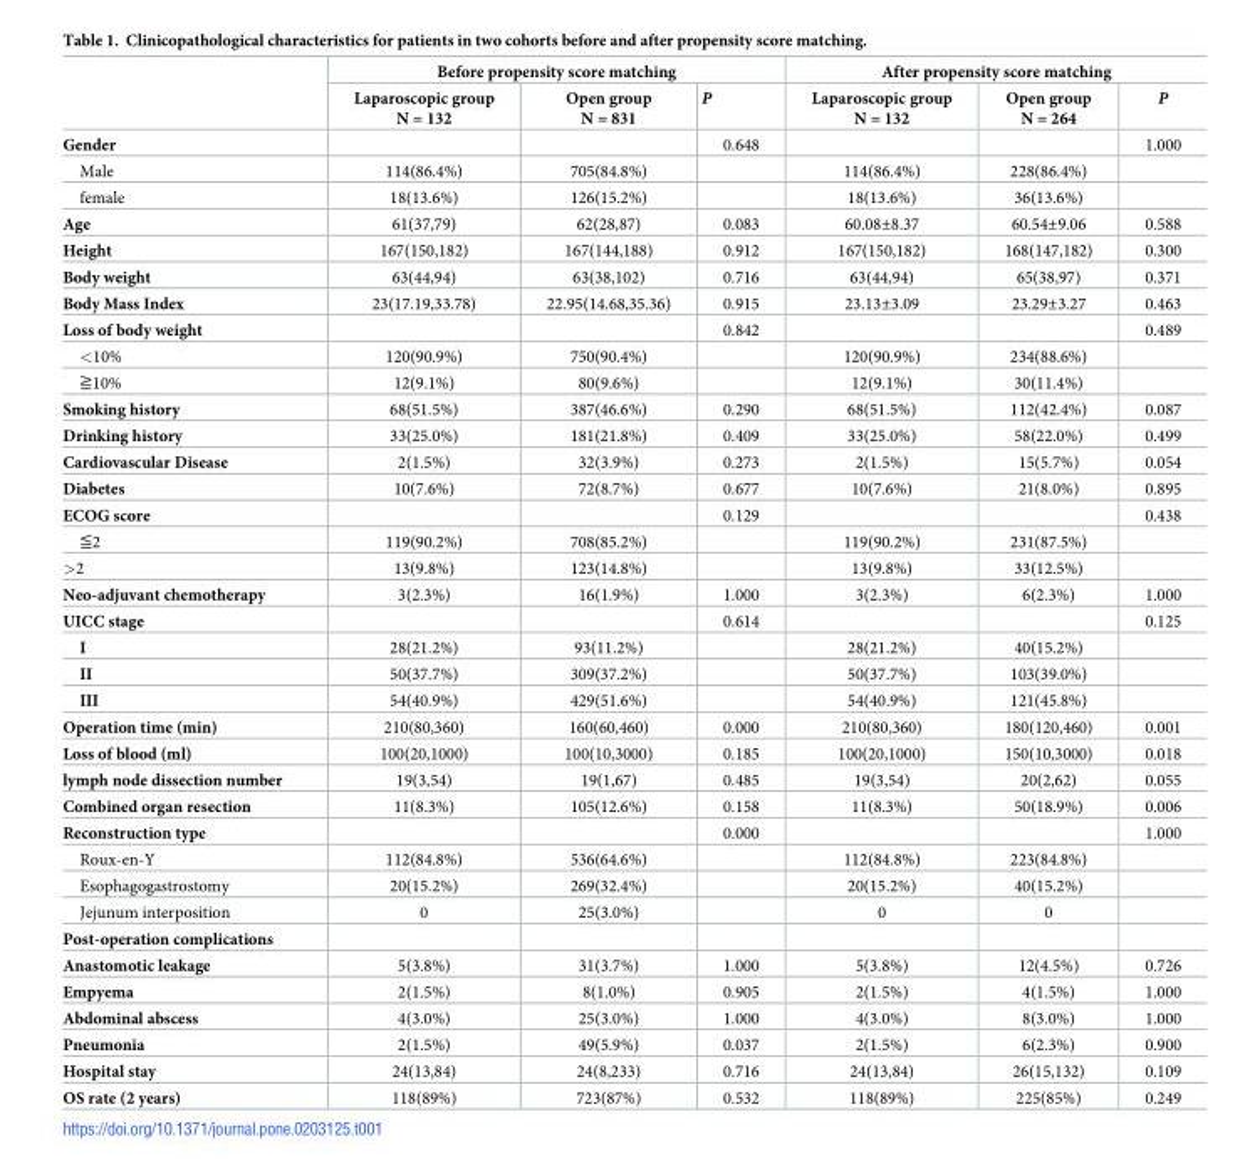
<table><thead><tr><td rowspan="2"></td><td colspan="3">Before propensity score matching</td><td colspan="3">After propensity score matching</td></tr><tr><td>Laparoscopic group N = 132</td><td>Open group N = 831</td><td>P</td><td>Laparoscopic group N = 132</td><td>Open group N = 264</td><td>P</td></tr></thead><tbody><tr><td>Gender</td><td></td><td></td><td>0.648</td><td></td><td></td><td>1.000</td></tr><tr><td>Male</td><td>114(86.4%)</td><td>705(84.8%)</td><td></td><td>114(86.4%)</td><td>228(86.4%)</td><td></td></tr><tr><td>female</td><td>18(13.6%)</td><td>126(15.2%)</td><td></td><td>18(13.6%)</td><td>36(13.6%)</td><td></td></tr><tr><td>Age</td><td>61(37,79)</td><td>62(28,87)</td><td>0.083</td><td>60.08±8.37</td><td>60.54±9.06</td><td>0.588</td></tr><tr><td>Height</td><td>167(150,182)</td><td>167(144,188)</td><td>0.912</td><td>167(150,182)</td><td>168(147,182)</td><td>0.300</td></tr><tr><td>Body weight</td><td>63(44,94)</td><td>63(38,102)</td><td>0.716</td><td>63(44,94)</td><td>65(38,97)</td><td>0.371</td></tr><tr><td>Body Mass Index</td><td>23(17.19,33.78)</td><td>22.95(14.68,35.36)</td><td>0.915</td><td>23.13±3.09</td><td>23.29±3.27</td><td>0.463</td></tr><tr><td>Loss of body weight</td><td></td><td></td><td>0.842</td><td></td><td></td><td>0.489</td></tr><tr><td>&lt;10%</td><td>120(90.9%)</td><td>750(90.4%)</td><td></td><td>120(90.9%)</td><td>234(88.6%)</td><td></td></tr><tr><td>≧10%</td><td>12(9.1%)</td><td>80(9.6%)</td><td></td><td>12(9.1%)</td><td>30(11.4%)</td><td></td></tr><tr><td>Smoking history</td><td>68(51.5%)</td><td>387(46.6%)</td><td>0.290</td><td>68(51.5%)</td><td>112(42.4%)</td><td>0.087</td></tr><tr><td>Drinking history</td><td>33(25.0%)</td><td>181(21.8%)</td><td>0.409</td><td>33(25.0%)</td><td>58(22.0%)</td><td>0.499</td></tr><tr><td>Cardiovascular Disease</td><td>2(1.5%)</td><td>32(3.9%)</td><td>0.273</td><td>2(1.5%)</td><td>15(5.7%)</td><td>0.054</td></tr><tr><td>Diabetes</td><td>10(7.6%)</td><td>72(8.7%)</td><td>0.677</td><td>10(7.6%)</td><td>21(8.0%)</td><td>0.895</td></tr><tr><td>ECOG score</td><td></td><td></td><td>0.129</td><td></td><td></td><td>0.438</td></tr><tr><td>≦2</td><td>119(90.2%)</td><td>708(85.2%)</td><td></td><td>119(90.2%)</td><td>231(87.5%)</td><td></td></tr><tr><td>&gt;2</td><td>13(9.8%)</td><td>123(14.8%)</td><td></td><td>13(9.8%)</td><td>33(12.5%)</td><td></td></tr><tr><td>Neo-adjuvant chemotherapy</td><td>3(2.3%)</td><td>16(1.9%)</td><td>1.000</td><td>3(2.3%)</td><td>6(2.3%)</td><td>1.000</td></tr><tr><td>UICC stage</td><td></td><td></td><td>0.614</td><td></td><td></td><td>0.125</td></tr><tr><td>I</td><td>28(21.2%)</td><td>93(11.2%)</td><td></td><td>28(21.2%)</td><td>40(15.2%)</td><td></td></tr><tr><td>II</td><td>50(37.7%)</td><td>309(37.2%)</td><td></td><td>50(37.7%)</td><td>103(39.0%)</td><td></td></tr><tr><td>III</td><td>54(40.9%)</td><td>429(51.6%)</td><td></td><td>54(40.9%)</td><td>121(45.8%)</td><td></td></tr><tr><td>Operation time (min)</td><td>210(80,360)</td><td>160(60,460)</td><td>0.000</td><td>210(80,360)</td><td>180(120,460)</td><td>0.001</td></tr><tr><td>Loss of blood (ml)</td><td>100(20,1000)</td><td>100(10,3000)</td><td>0.185</td><td>100(20,1000)</td><td>150(10,3000)</td><td>0.018</td></tr><tr><td>lymph node dissection number</td><td>19(3,54)</td><td>19(1,67)</td><td>0.485</td><td>19(3,54)</td><td>20(2,62)</td><td>0.055</td></tr><tr><td>Combined organ resection</td><td>11(8.3%)</td><td>105(12.6%)</td><td>0.158</td><td>11(8.3%)</td><td>50(18.9%)</td><td>0.006</td></tr><tr><td>Reconstruction type</td><td></td><td></td><td>0.000</td><td></td><td></td><td>1.000</td></tr><tr><td>Roux-en-Y</td><td>112(84.8%)</td><td>536(64.6%)</td><td></td><td>112(84.8%)</td><td>223(84.8%)</td><td></td></tr><tr><td>Esophagogastrostomy</td><td>20(15.2%)</td><td>269(32.4%)</td><td></td><td>20(15.2%)</td><td>40(15.2%)</td><td></td></tr><tr><td>Jejunum interposition</td><td>0</td><td>25(3.0%)</td><td></td><td>0</td><td>0</td><td></td></tr><tr><td colspan="7">Post-operation complications</td></tr><tr><td>Anastomotic leakage</td><td>5(3.8%)</td><td>31(3.7%)</td><td>1.000</td><td>5(3.8%)</td><td>12(4.5%)</td><td>0.726</td></tr><tr><td>Empyema</td><td>2(1.5%)</td><td>8(1.0%)</td><td>0.905</td><td>2(1.5%)</td><td>4(1.5%)</td><td>1.000</td></tr><tr><td>Abdominal abscess</td><td>4(3.0%)</td><td>25(3.0%)</td><td>1.000</td><td>4(3.0%)</td><td>8(3.0%)</td><td>1.000</td></tr><tr><td>Pneumonia</td><td>2(1.5%)</td><td>49(5.9%)</td><td>0.037</td><td>2(1.5%)</td><td>6(2.3%)</td><td>0.900</td></tr><tr><td>Hospital stay</td><td>24(13,84)</td><td>24(8,233)</td><td>0.716</td><td>24(13,84)</td><td>26(15,132)</td><td>0.109</td></tr><tr><td>OS rate (2 years)</td><td>118(89%)</td><td>723(87%)</td><td>0.532</td><td>118(89%)</td><td>225(85%)</td><td>0.249</td></tr></tbody></table>